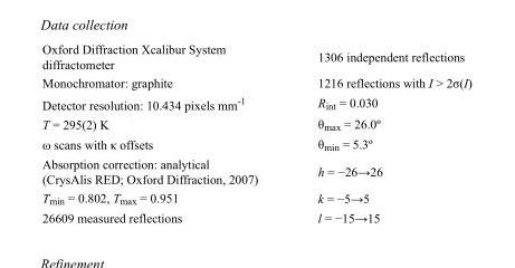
<table><tbody><tr><td>Oxford Diffraction Xcalibur System diffractometer</td><td>1306 independent reflections</td></tr><tr><td>Monochromator: graphite</td><td>1216 reflections with I &gt; 2σ(I)</td></tr><tr><td>Detector resolution: 10.434 pixels mm<sup>-1</sup></td><td>R<sub>int</sub> = 0.030</td></tr><tr><td>T = 295(2) K</td><td>θ<sub>max</sub> = 26.0º</td></tr><tr><td>ω scans with κ offsets</td><td>θ<sub>min</sub> = 5.3º</td></tr><tr><td>Absorption correction: analytical (CrysAlis RED; Oxford Diffraction, 2007)</td><td>h = −26→26</td></tr><tr><td>T<sub>min</sub> = 0.802, T<sub>max</sub> = 0.951</td><td>k = −5→5</td></tr><tr><td>26609 measured reflections</td><td>l = −15→15</td></tr></tbody></table>